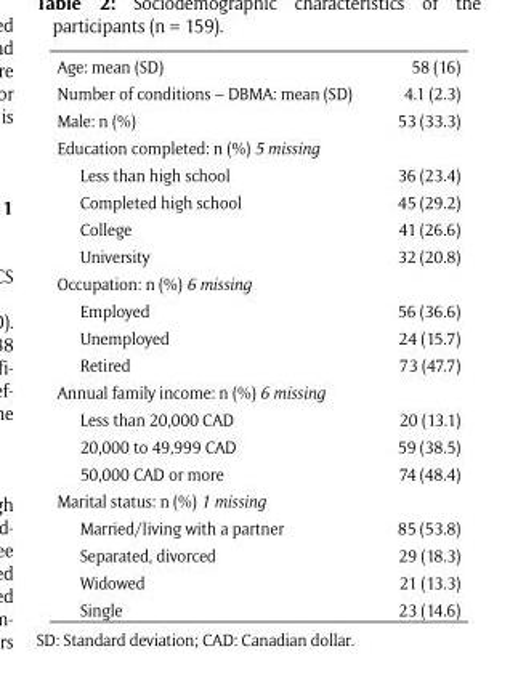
<table><tbody><tr><td>Age: mean (SD)</td><td>58 (16)</td></tr><tr><td>Number of conditions – DBMA: mean (SD)</td><td>4.1 (2.3)</td></tr><tr><td>Male: n (%)</td><td>53 (33.3)</td></tr><tr><td colspan="2">Education completed: n (%) 5 missing</td></tr><tr><td>Less than high school</td><td>36 (23.4)</td></tr><tr><td>Completed high school</td><td>45 (29.2)</td></tr><tr><td>College</td><td>41 (26.6)</td></tr><tr><td>University</td><td>32 (20.8)</td></tr><tr><td colspan="2">Occupation: n (%) 6 missing</td></tr><tr><td>Employed</td><td>56 (36.6)</td></tr><tr><td>Unemployed</td><td>24 (15.7)</td></tr><tr><td>Retired</td><td>73 (47.7)</td></tr><tr><td colspan="2">Annual family income: n (%) 6 missing</td></tr><tr><td>Less than 20,000 CAD</td><td>20 (13.1)</td></tr><tr><td>20,000 to 49,999 CAD</td><td>59 (38.5)</td></tr><tr><td>50,000 CAD or more</td><td>74 (48.4)</td></tr><tr><td colspan="2">Marital status: n (%) 1 missing</td></tr><tr><td>Married/living with a partner</td><td>85 (53.8)</td></tr><tr><td>Separated, divorced</td><td>29 (18.3)</td></tr><tr><td>Widowed</td><td>21 (13.3)</td></tr><tr><td>Single</td><td>23 (14.6)</td></tr></tbody></table>